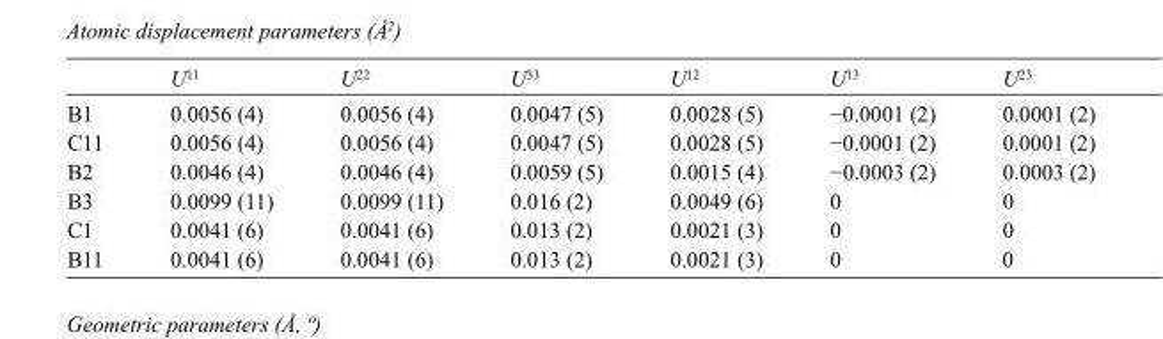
<table><thead><tr><td></td><td>U<sup>11</sup></td><td>U<sup>22</sup></td><td>U<sup>33</sup></td><td>U<sup>12</sup></td><td>U<sup>13</sup></td><td>U<sup>23</sup></td></tr></thead><tbody><tr><td>B1</td><td>0.0056 (4)</td><td>0.0056 (4)</td><td>0.0047 (5)</td><td>0.0028 (5)</td><td>−0.0001 (2)</td><td>0.0001 (2)</td></tr><tr><td>C11</td><td>0.0056 (4)</td><td>0.0056 (4)</td><td>0.0047 (5)</td><td>0.0028 (5)</td><td>−0.0001 (2)</td><td>0.0001 (2)</td></tr><tr><td>B2</td><td>0.0046 (4)</td><td>0.0046 (4)</td><td>0.0059 (5)</td><td>0.0015 (4)</td><td>−0.0003 (2)</td><td>0.0003 (2)</td></tr><tr><td>B3</td><td>0.0099 (11)</td><td>0.0099 (11)</td><td>0.016 (2)</td><td>0.0049 (6)</td><td>0</td><td>0</td></tr><tr><td>C1</td><td>0.0041 (6)</td><td>0.0041 (6)</td><td>0.013 (2)</td><td>0.0021 (3)</td><td>0</td><td>0</td></tr><tr><td>B11</td><td>0.0041 (6)</td><td>0.0041 (6)</td><td>0.013 (2)</td><td>0.0021 (3)</td><td>0</td><td>0</td></tr></tbody></table>